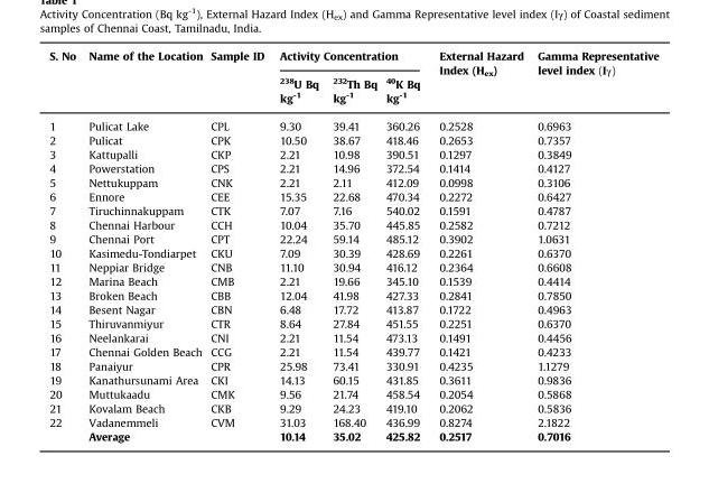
<table><thead><tr><td rowspan="2">S. No</td><td rowspan="2">Name of the Location</td><td rowspan="2">Sample ID</td><td colspan="3">Activity Concentration</td><td rowspan="2">External Hazard Index (H<sub>ex</sub>)</td><td rowspan="2">Gamma Representative level index (Iγ)</td></tr><tr><td><sup>238</sup>U Bq kg<sup>-1</sup></td><td><sup>232</sup>Th Bq kg<sup>-1</sup></td><td><sup>40</sup>K Bq kg<sup>-1</sup></td></tr></thead><tbody><tr><td>1</td><td>Pulicat Lake</td><td>CPL</td><td>9.30</td><td>39.41</td><td>360.26</td><td>0.2528</td><td>0.6963</td></tr><tr><td>2</td><td>Pulicat</td><td>CPK</td><td>10.50</td><td>38.67</td><td>418.46</td><td>0.2653</td><td>0.7357</td></tr><tr><td>3</td><td>Kattupalli</td><td>CKP</td><td>2.21</td><td>10.98</td><td>390.51</td><td>0.1297</td><td>0.3849</td></tr><tr><td>4</td><td>Powerstation</td><td>CPS</td><td>2.21</td><td>14.96</td><td>372.54</td><td>0.1414</td><td>0.4127</td></tr><tr><td>5</td><td>Nettukuppam</td><td>CNK</td><td>2.21</td><td>2.11</td><td>412.09</td><td>0.0998</td><td>0.3106</td></tr><tr><td>6</td><td>Ennore</td><td>CEE</td><td>15.35</td><td>22.68</td><td>470.34</td><td>0.2272</td><td>0.6427</td></tr><tr><td>7</td><td>Tiruchinnakuppam</td><td>CTK</td><td>7.07</td><td>7.16</td><td>540.02</td><td>0.1591</td><td>0.4787</td></tr><tr><td>8</td><td>Chennai Harbour</td><td>CCH</td><td>10.04</td><td>35.70</td><td>445.85</td><td>0.2582</td><td>0.7212</td></tr><tr><td>9</td><td>Chennai Port</td><td>CPT</td><td>22.24</td><td>59.14</td><td>485.12</td><td>0.3902</td><td>1.0631</td></tr><tr><td>10</td><td>Kasimedu-Tondiarpet</td><td>CKU</td><td>7.09</td><td>30.39</td><td>428.69</td><td>0.2261</td><td>0.6370</td></tr><tr><td>11</td><td>Neppiar Bridge</td><td>CNB</td><td>11.10</td><td>30.94</td><td>416.12</td><td>0.2364</td><td>0.6608</td></tr><tr><td>12</td><td>Marina Beach</td><td>CMB</td><td>2.21</td><td>19.66</td><td>345.10</td><td>0.1539</td><td>0.4414</td></tr><tr><td>13</td><td>Broken Beach</td><td>CBB</td><td>12.04</td><td>41.98</td><td>427.33</td><td>0.2841</td><td>0.7850</td></tr><tr><td>14</td><td>Besent Nagar</td><td>CBN</td><td>6.48</td><td>17.72</td><td>413.87</td><td>0.1722</td><td>0.4963</td></tr><tr><td>15</td><td>Thiruvanmiyur</td><td>CTR</td><td>8.64</td><td>27.84</td><td>451.55</td><td>0.2251</td><td>0.6370</td></tr><tr><td>16</td><td>Neelankarai</td><td>CNI</td><td>2.21</td><td>11.54</td><td>473.13</td><td>0.1491</td><td>0.4456</td></tr><tr><td>17</td><td>Chennai Golden Beach</td><td>CCG</td><td>2.21</td><td>11.54</td><td>439.77</td><td>0.1421</td><td>0.4233</td></tr><tr><td>18</td><td>Panaiyur</td><td>CPR</td><td>25.98</td><td>73.41</td><td>330.91</td><td>0.4235</td><td>1.1279</td></tr><tr><td>19</td><td>Kanathursunami Area</td><td>CKI</td><td>14.13</td><td>60.15</td><td>431.85</td><td>0.3611</td><td>0.9836</td></tr><tr><td>20</td><td>Muttukaadu</td><td>CMK</td><td>9.56</td><td>21.74</td><td>458.54</td><td>0.2054</td><td>0.5868</td></tr><tr><td>21</td><td>Kovalam Beach</td><td>CKB</td><td>9.29</td><td>24.23</td><td>419.10</td><td>0.2062</td><td>0.5836</td></tr><tr><td rowspan="2">22</td><td>Vadanemmeli</td><td>CVM</td><td>31.03</td><td>168.40</td><td>436.99</td><td>0.8274</td><td>2.1822</td></tr><tr><td colspan="2">Average</td><td>10.14</td><td>35.02</td><td>425.82</td><td>0.2517</td><td>0.7016</td></tr></tbody></table>